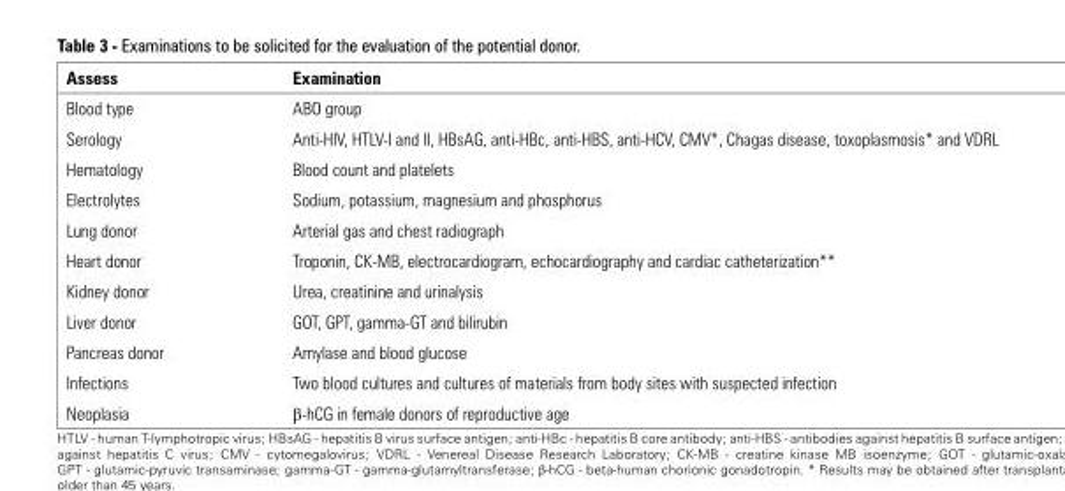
<table><thead><tr><td>Assess</td><td>Examination</td></tr></thead><tbody><tr><td>Blood type</td><td>ABO group</td></tr><tr><td>Serology</td><td>Anti-HIV, HTLV-I and II, HBsAG, anti-HBc, anti-HBS, anti-HCV, CMV*, Chagas disease, toxoplasmosis* and VDRL</td></tr><tr><td>Hematology</td><td>Blood count and platelets</td></tr><tr><td>Electrolytes</td><td>Sodium, potassium, magnesium and phosphorus</td></tr><tr><td>Lung donor</td><td>Arterial gas and chest radiograph</td></tr><tr><td>Heart donor</td><td>Troponin, CK-MB, electrocardiogram, echocardiography and cardiac catheterization**</td></tr><tr><td>Kidney donor</td><td>Urea, creatinine and urinalysis</td></tr><tr><td>Liver donor</td><td>GOT, GPT, gamma-GT and bilirubin</td></tr><tr><td>Pancreas donor</td><td>Amylase and blood glucose</td></tr><tr><td>Infections</td><td>Two blood cultures and cultures of materials from body sites with suspected infection</td></tr><tr><td>Neoplasia</td><td>β-hCG in female donors of reproductive age</td></tr></tbody></table>